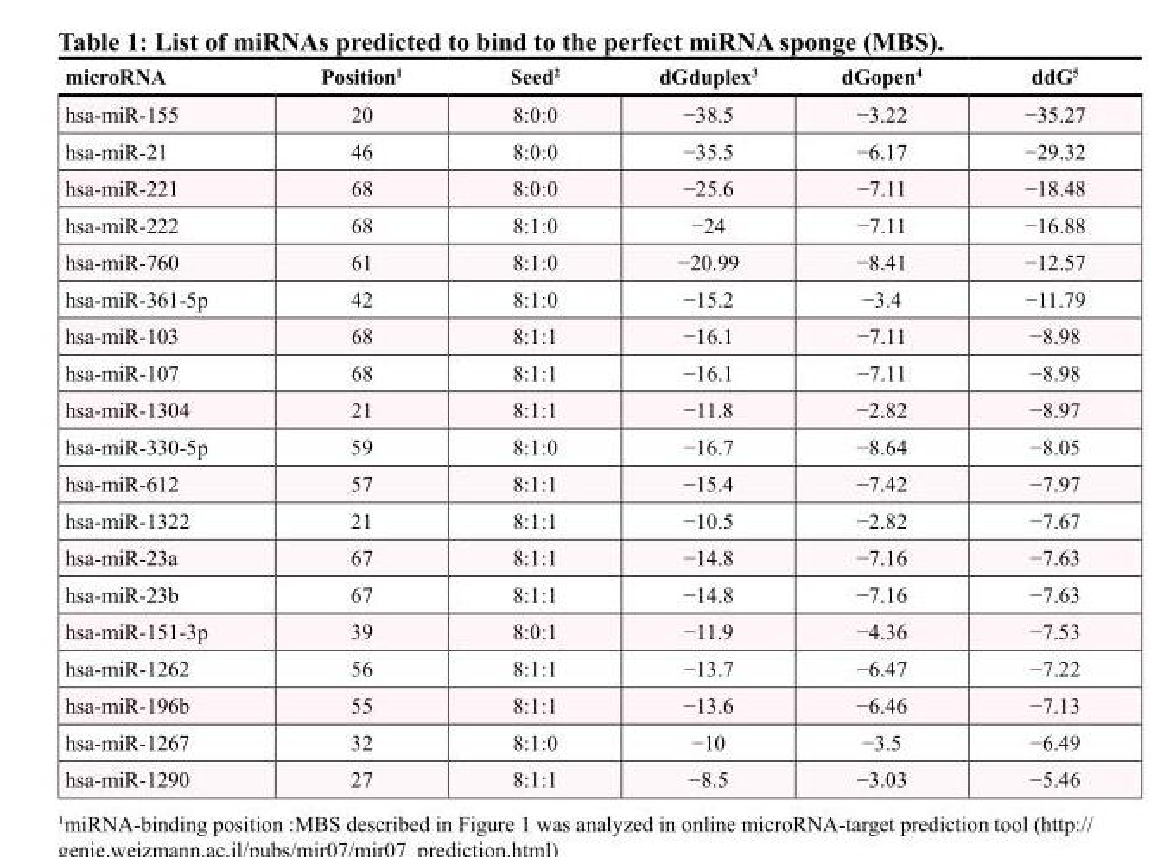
<table><thead><tr><td>microRNA</td><td>Position<sup>1</sup></td><td>Seed<sup>2</sup></td><td>dGduplex<sup>3</sup></td><td>dGopen<sup>4</sup></td><td>ddG<sup>5</sup></td></tr></thead><tbody><tr><td>hsa-miR-155</td><td>20</td><td>8:0:0</td><td>−38.5</td><td>−3.22</td><td>−35.27</td></tr><tr><td>hsa-miR-21</td><td>46</td><td>8:0:0</td><td>−35.5</td><td>−6.17</td><td>−29.32</td></tr><tr><td>hsa-miR-221</td><td>68</td><td>8:0:0</td><td>−25.6</td><td>−7.11</td><td>−18.48</td></tr><tr><td>hsa-miR-222</td><td>68</td><td>8:1:0</td><td>−24</td><td>−7.11</td><td>−16.88</td></tr><tr><td>hsa-miR-760</td><td>61</td><td>8:1:0</td><td>−20.99</td><td>−8.41</td><td>−12.57</td></tr><tr><td>hsa-miR-361-5p</td><td>42</td><td>8:1:0</td><td>−15.2</td><td>−3.4</td><td>−11.79</td></tr><tr><td>hsa-miR-103</td><td>68</td><td>8:1:1</td><td>−16.1</td><td>−7.11</td><td>−8.98</td></tr><tr><td>hsa-miR-107</td><td>68</td><td>8:1:1</td><td>−16.1</td><td>−7.11</td><td>−8.98</td></tr><tr><td>hsa-miR-1304</td><td>21</td><td>8:1:1</td><td>−11.8</td><td>−2.82</td><td>−8.97</td></tr><tr><td>hsa-miR-330-5p</td><td>59</td><td>8:1:0</td><td>−16.7</td><td>−8.64</td><td>−8.05</td></tr><tr><td>hsa-miR-612</td><td>57</td><td>8:1:1</td><td>−15.4</td><td>−7.42</td><td>−7.97</td></tr><tr><td>hsa-miR-1322</td><td>21</td><td>8:1:1</td><td>−10.5</td><td>−2.82</td><td>−7.67</td></tr><tr><td>hsa-miR-23a</td><td>67</td><td>8:1:1</td><td>−14.8</td><td>−7.16</td><td>−7.63</td></tr><tr><td>hsa-miR-23b</td><td>67</td><td>8:1:1</td><td>−14.8</td><td>−7.16</td><td>−7.63</td></tr><tr><td>hsa-miR-151-3p</td><td>39</td><td>8:0:1</td><td>−11.9</td><td>−4.36</td><td>−7.53</td></tr><tr><td>hsa-miR-1262</td><td>56</td><td>8:1:1</td><td>−13.7</td><td>−6.47</td><td>−7.22</td></tr><tr><td>hsa-miR-196b</td><td>55</td><td>8:1:1</td><td>−13.6</td><td>−6.46</td><td>−7.13</td></tr><tr><td>hsa-miR-1267</td><td>32</td><td>8:1:0</td><td>−10</td><td>−3.5</td><td>−6.49</td></tr><tr><td>hsa-miR-1290</td><td>27</td><td>8:1:1</td><td>−8.5</td><td>−3.03</td><td>−5.46</td></tr></tbody></table>